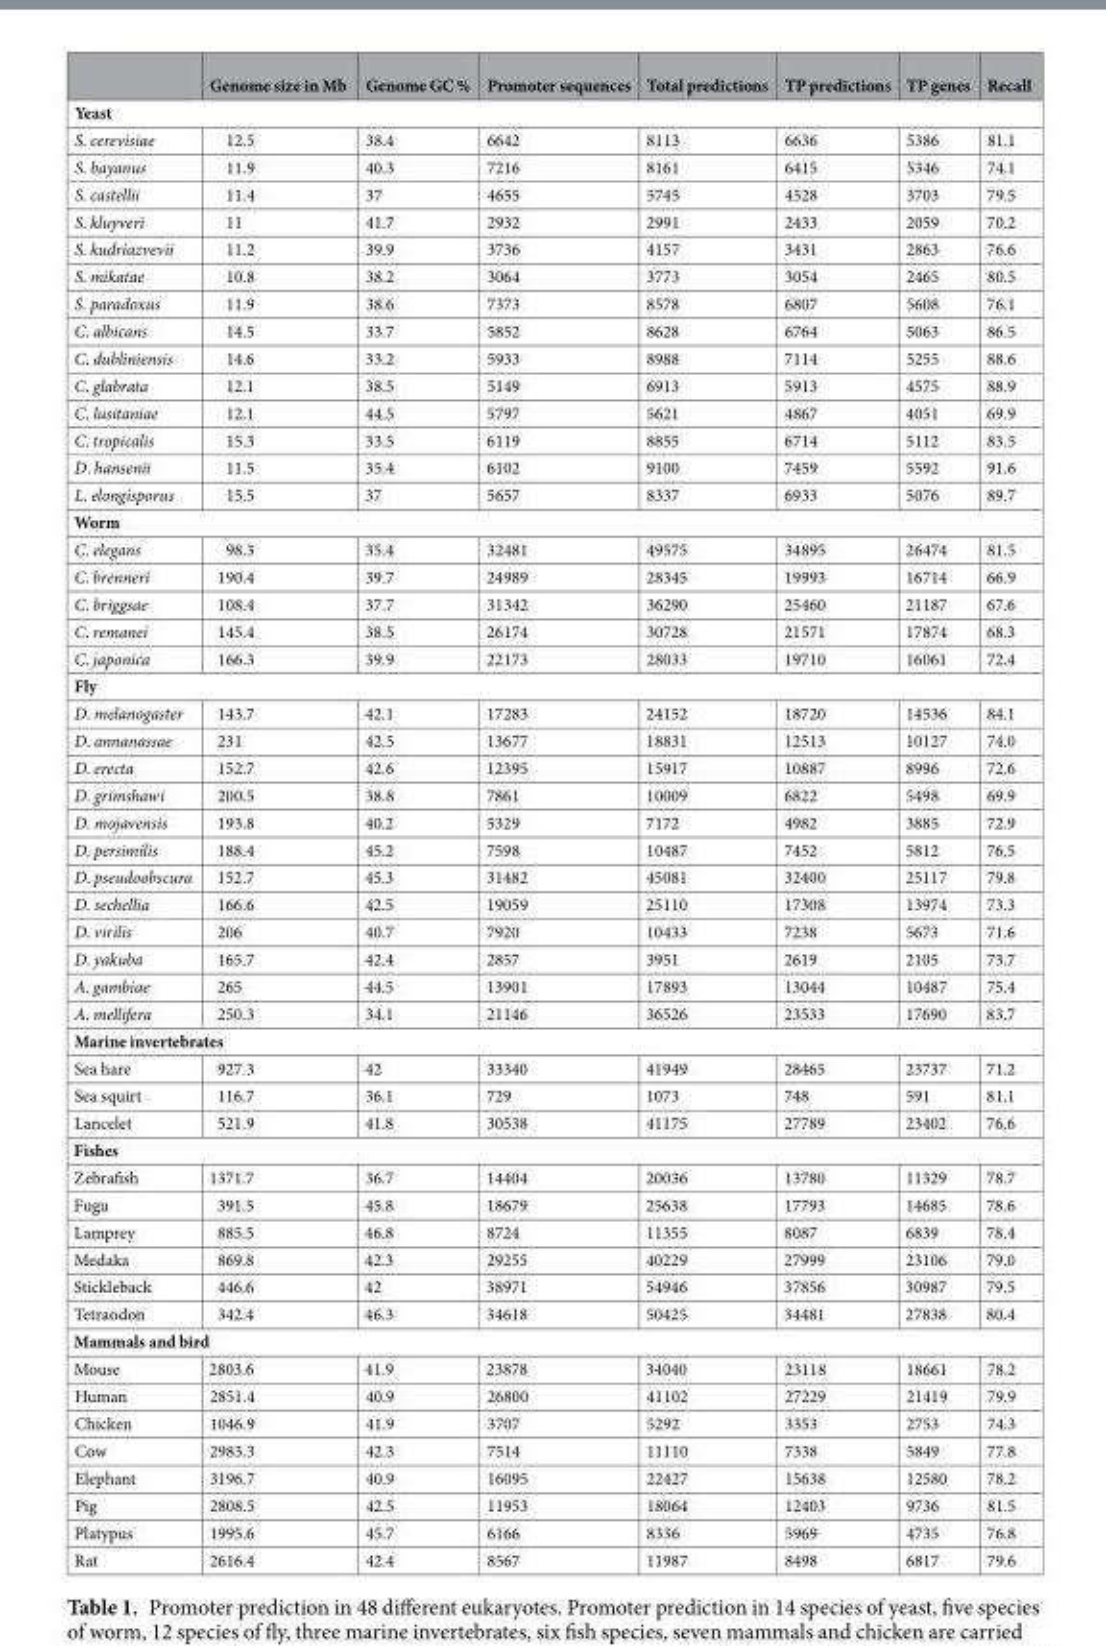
<table><thead><tr><td></td><td>Genome size in Mb</td><td>Genome GC %</td><td>Promoter sequences</td><td>Total predictions</td><td>TP predictions</td><td>TP genes</td><td>Recall</td></tr></thead><tbody><tr><td colspan="8">Yeast</td></tr><tr><td>S. cerevisiae</td><td>12.5</td><td>38.4</td><td>6642</td><td>8113</td><td>6636</td><td>5386</td><td>81.1</td></tr><tr><td>S. bayanus</td><td>11.9</td><td>40.3</td><td>7216</td><td>8161</td><td>6415</td><td>5346</td><td>74.1</td></tr><tr><td>S. castellii</td><td>11.4</td><td>37</td><td>4655</td><td>5745</td><td>4528</td><td>3703</td><td>79.5</td></tr><tr><td>S. kluyveri</td><td>11</td><td>41.7</td><td>2932</td><td>2991</td><td>2433</td><td>2059</td><td>70.2</td></tr><tr><td>S. kudriazvevii</td><td>11.2</td><td>39.9</td><td>3736</td><td>4157</td><td>3431</td><td>2863</td><td>76.6</td></tr><tr><td>S. mikatae</td><td>10.8</td><td>38.2</td><td>3064</td><td>3773</td><td>3054</td><td>2465</td><td>80.5</td></tr><tr><td>S. paradoxus</td><td>11.9</td><td>38.6</td><td>7373</td><td>8578</td><td>6807</td><td>5608</td><td>76.1</td></tr><tr><td>C. albicans</td><td>14.5</td><td>33.7</td><td>5852</td><td>8628</td><td>6764</td><td>5063</td><td>86.5</td></tr><tr><td>C. dubliniensis</td><td>14.6</td><td>33.2</td><td>5933</td><td>8988</td><td>7114</td><td>5255</td><td>88.6</td></tr><tr><td>C. glabrata</td><td>12.1</td><td>38.5</td><td>5149</td><td>6913</td><td>5913</td><td>4575</td><td>88.9</td></tr><tr><td>C. lusitaniae</td><td>12.1</td><td>44.5</td><td>5797</td><td>5621</td><td>4867</td><td>4051</td><td>69.9</td></tr><tr><td>C. tropicalis</td><td>15.3</td><td>33.5</td><td>6119</td><td>8855</td><td>6714</td><td>5112</td><td>83.5</td></tr><tr><td>D. hansenii</td><td>11.5</td><td>35.4</td><td>6102</td><td>9100</td><td>7459</td><td>5592</td><td>91.6</td></tr><tr><td>L. elongisporus</td><td>15.5</td><td>37</td><td>5657</td><td>8337</td><td>6933</td><td>5076</td><td>89.7</td></tr><tr><td colspan="8">Worm</td></tr><tr><td>C. elegans</td><td>98.3</td><td>35.4</td><td>32481</td><td>49575</td><td>34895</td><td>26474</td><td>81.5</td></tr><tr><td>C. brenneri</td><td>190.4</td><td>39.7</td><td>24989</td><td>28345</td><td>19993</td><td>16714</td><td>66.9</td></tr><tr><td>C. briggsae</td><td>108.4</td><td>37.7</td><td>31342</td><td>36290</td><td>25460</td><td>21187</td><td>67.6</td></tr><tr><td>C. remanei</td><td>145.4</td><td>38.5</td><td>26174</td><td>30728</td><td>21571</td><td>17874</td><td>68.3</td></tr><tr><td>C. japonica</td><td>166.3</td><td>39.9</td><td>22173</td><td>28033</td><td>19710</td><td>16061</td><td>72.4</td></tr><tr><td colspan="8">Fly</td></tr><tr><td>D. melanogaster</td><td>143.7</td><td>42.1</td><td>17283</td><td>24152</td><td>18720</td><td>14536</td><td>84.1</td></tr><tr><td>D. annanassae</td><td>231</td><td>42.5</td><td>13677</td><td>18831</td><td>12513</td><td>10127</td><td>74.0</td></tr><tr><td>D. erecta</td><td>152.7</td><td>42.6</td><td>12395</td><td>15917</td><td>10887</td><td>8996</td><td>72.6</td></tr><tr><td>D. grimshawi</td><td>200.5</td><td>38.8</td><td>7861</td><td>10009</td><td>6822</td><td>5498</td><td>69.9</td></tr><tr><td>D. mojavensis</td><td>193.8</td><td>40.2</td><td>5329</td><td>7172</td><td>4982</td><td>3885</td><td>72.9</td></tr><tr><td>D. persimilis</td><td>188.4</td><td>45.2</td><td>7598</td><td>10487</td><td>7452</td><td>5812</td><td>76.5</td></tr><tr><td>D. pseudoobscura</td><td>152.7</td><td>45.3</td><td>31482</td><td>45081</td><td>32400</td><td>25117</td><td>79.8</td></tr><tr><td>D. sechellia</td><td>166.6</td><td>42.5</td><td>19059</td><td>25110</td><td>17308</td><td>13974</td><td>73.3</td></tr><tr><td>D. virilis</td><td>206</td><td>40.7</td><td>7920</td><td>10433</td><td>7238</td><td>5673</td><td>71.6</td></tr><tr><td>D. yakuba</td><td>165.7</td><td>42.4</td><td>2857</td><td>3951</td><td>2619</td><td>2105</td><td>73.7</td></tr><tr><td>A. gambiae</td><td>265</td><td>44.5</td><td>13901</td><td>17893</td><td>13044</td><td>10487</td><td>75.4</td></tr><tr><td>A. mellifera</td><td>250.3</td><td>34.1</td><td>21146</td><td>36526</td><td>23533</td><td>17690</td><td>83.7</td></tr><tr><td colspan="8">Marine invertebrates</td></tr><tr><td>Sea hare</td><td>927.3</td><td>42</td><td>33340</td><td>41949</td><td>28465</td><td>23737</td><td>71.2</td></tr><tr><td>Sea squirt</td><td>116.7</td><td>36.1</td><td>729</td><td>1073</td><td>748</td><td>591</td><td>81.1</td></tr><tr><td>Lancelet</td><td>521.9</td><td>41.8</td><td>30538</td><td>41175</td><td>27789</td><td>23402</td><td>76.6</td></tr><tr><td colspan="8">Fishes</td></tr><tr><td>Zebrafish</td><td>1371.7</td><td>36.7</td><td>14404</td><td>20036</td><td>13780</td><td>11329</td><td>78.7</td></tr><tr><td>Fugu</td><td>391.5</td><td>45.8</td><td>18679</td><td>25638</td><td>17793</td><td>14685</td><td>78.6</td></tr><tr><td>Lamprey</td><td>885.5</td><td>46.8</td><td>8724</td><td>11355</td><td>8087</td><td>6839</td><td>78.4</td></tr><tr><td>Medaka</td><td>869.8</td><td>42.3</td><td>29255</td><td>40229</td><td>27999</td><td>23106</td><td>79.0</td></tr><tr><td>Stickleback</td><td>446.6</td><td>42</td><td>38971</td><td>54946</td><td>37856</td><td>30987</td><td>79.5</td></tr><tr><td>Tetraodon</td><td>342.4</td><td>46.3</td><td>34618</td><td>50425</td><td>34481</td><td>27838</td><td>80.4</td></tr><tr><td colspan="8">Mammals and bird</td></tr><tr><td>Mouse</td><td>2803.6</td><td>41.9</td><td>23878</td><td>34040</td><td>23118</td><td>18661</td><td>78.2</td></tr><tr><td>Human</td><td>2851.4</td><td>40.9</td><td>26800</td><td>41102</td><td>27229</td><td>21419</td><td>79.9</td></tr><tr><td>Chicken</td><td>1046.9</td><td>41.9</td><td>3707</td><td>5292</td><td>3353</td><td>2753</td><td>74.3</td></tr><tr><td>Cow</td><td>2983.3</td><td>42.3</td><td>7514</td><td>11110</td><td>7338</td><td>5849</td><td>77.8</td></tr><tr><td>Elephant</td><td>3196.7</td><td>40.9</td><td>16095</td><td>22427</td><td>15638</td><td>12580</td><td>78.2</td></tr><tr><td>Pig</td><td>2808.5</td><td>42.5</td><td>11953</td><td>18064</td><td>12403</td><td>9736</td><td>81.5</td></tr><tr><td>Platypus</td><td>1995.6</td><td>45.7</td><td>6166</td><td>8336</td><td>5969</td><td>4735</td><td>76.8</td></tr><tr><td>Rat</td><td>2616.4</td><td>42.4</td><td>8567</td><td>11987</td><td>8498</td><td>6817</td><td>79.6</td></tr></tbody></table>